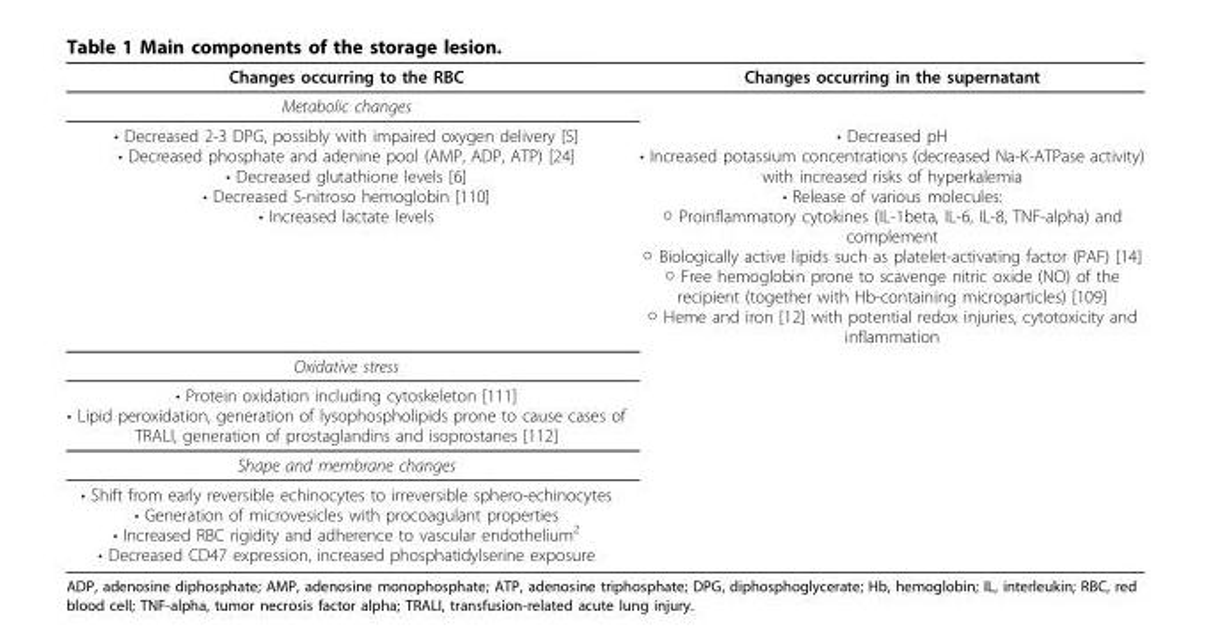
<table><thead><tr><td>Changes occurring to the RBC</td><td>Changes occurring in the supernatant</td></tr></thead><tbody><tr><td colspan="2">Metabolic changes</td></tr><tr><td>• Decreased 2-3 DPG, possibly with impaired oxygen delivery [5] • Decreased phosphate and adenine pool (AMP, ADP, ATP) [24] • Decreased glutathione levels [6] • Decreased S-nitroso hemoglobin [110] • Increased lactate levels</td><td>• Decreased pH • Increased potassium concentrations (decreased Na-K-ATPase activity) with increased risks of hyperkalemia • Release of various molecules: ○ Proinflammatory cytokines (IL-1beta, IL-6, IL-8, TNF-alpha) and complement ○ Biologically active lipids such as platelet-activating factor (PAF) [14] ○ Free hemoglobin prone to scavenge nitric oxide (NO) of the recipient (together with Hb-containing microparticles) [109] ○ Heme and iron [12] with potential redox injuries, cytotoxicity and inflammation</td></tr><tr><td colspan="2">Oxidative stress</td></tr><tr><td colspan="2">• Protein oxidation including cytoskeleton [111] • Lipid peroxidation, generation of lysophospholipids prone to cause cases of TRALI, generation of prostaglandins and isoprostanes [112]</td></tr><tr><td colspan="2">Shape and membrane changes</td></tr><tr><td>• Shift from early reversible echinocytes to irreversible sphero-echinocytes • Generation of microvesicles with procoagulant properties • Increased RBC rigidity and adherence to vascular endothelium<sup>2</sup> • Decreased CD47 expression, increased phosphatidylserine exposure</td><td></td></tr></tbody></table>